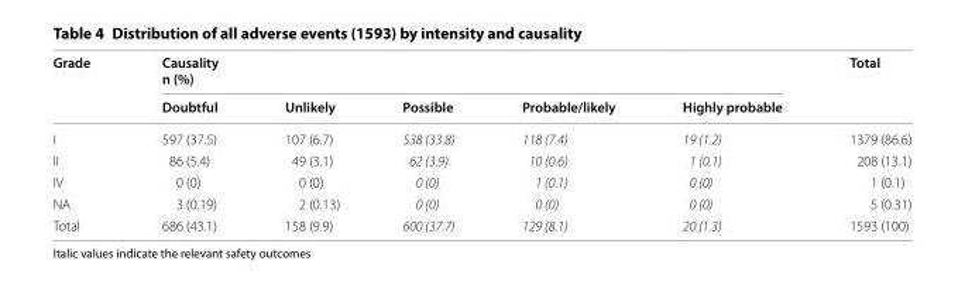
<table><thead><tr><td rowspan="2">Grade</td><td colspan="5">Causality n (%)</td><td rowspan="2">Total</td></tr><tr><td>Doubtful</td><td>Unlikely</td><td>Possible</td><td>Probable/likely</td><td>Highly probable</td></tr></thead><tbody><tr><td>I</td><td>597 (37.5)</td><td>107 (6.7)</td><td>538 (33.8)</td><td>118 (7.4)</td><td>19 (1.2)</td><td>1379 (86.6)</td></tr><tr><td>II</td><td>86 (5.4)</td><td>49 (3.1)</td><td>62 (3.9)</td><td>10 (0.6)</td><td>1 (0.1)</td><td>208 (13.1)</td></tr><tr><td>IV</td><td>0 (0)</td><td>0 (0)</td><td>0 (0)</td><td>1 (0.1)</td><td>0 (0)</td><td>1 (0.1)</td></tr><tr><td>NA</td><td>3 (0.19)</td><td>2 (0.13)</td><td>0 (0)</td><td>0 (0)</td><td>0 (0)</td><td>5 (0.31)</td></tr><tr><td>Total</td><td>686 (43.1)</td><td>158 (9.9)</td><td>600 (37.7)</td><td>129 (8.1)</td><td>20 (1.3)</td><td>1593 (100)</td></tr></tbody></table>